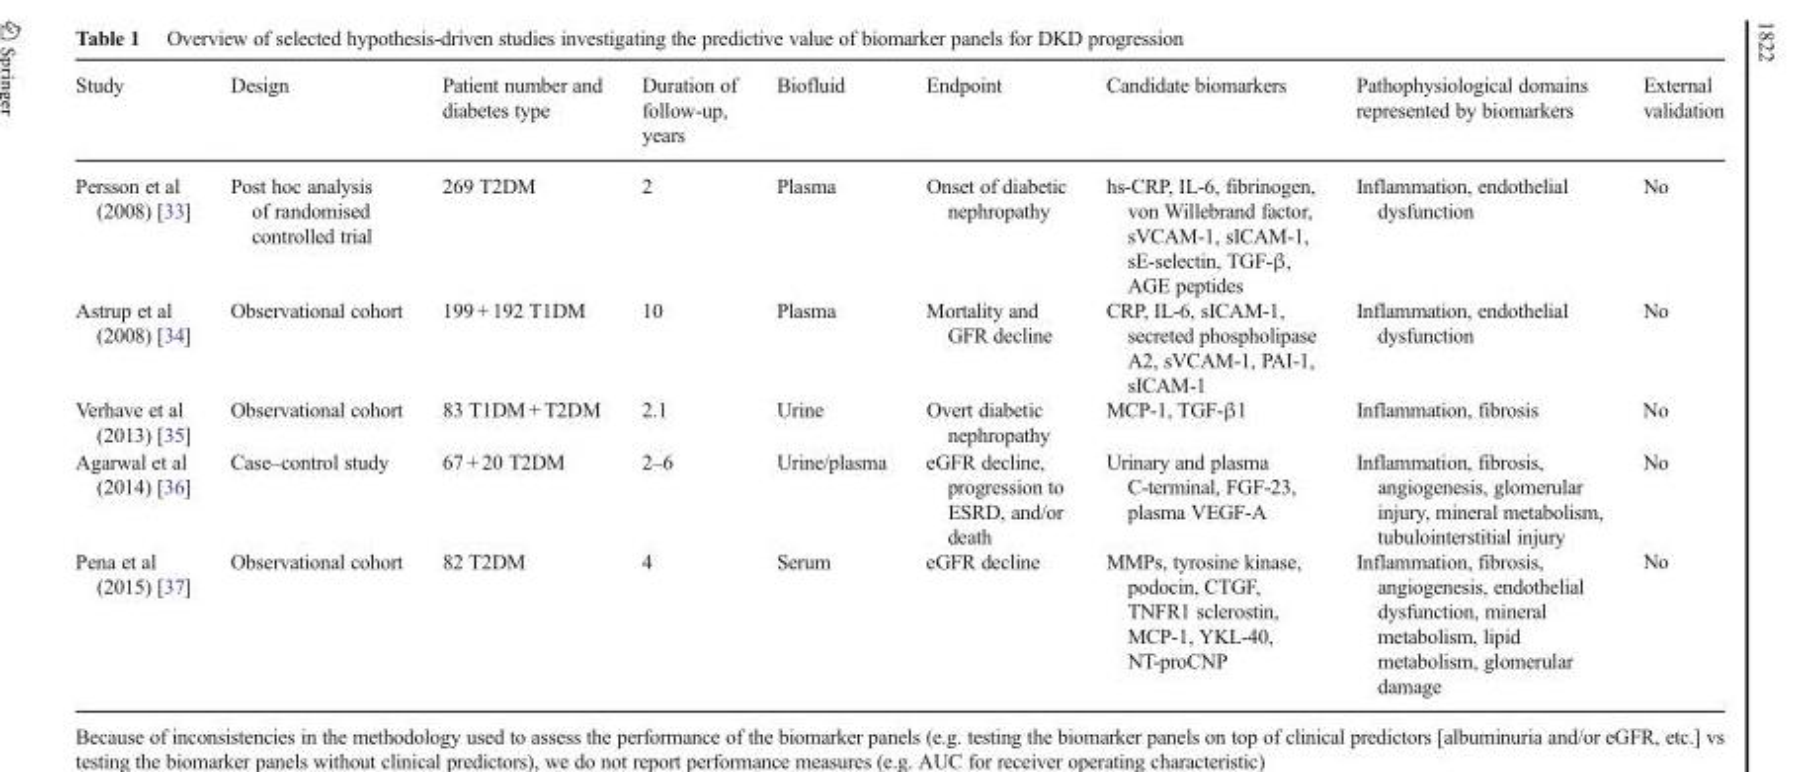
<table><thead><tr><td>Study</td><td>Design</td><td>Patient number and diabetes type</td><td>Duration of follow-up, years</td><td>Biofluid</td><td>Endpoint</td><td>Candidate biomarkers</td><td>Pathophysiological domains represented by biomarkers</td><td>External validation</td></tr></thead><tbody><tr><td>Persson et al (2008) [33]</td><td>Post hoc analysis of randomised controlled trial</td><td>269 T2DM</td><td>2</td><td>Plasma</td><td>Onset of diabetic nephropathy</td><td>hs-CRP, IL-6, fibrinogen, von Willebrand factor, sVCAM-1, sICAM-1, sE-selectin, TGF-β, AGE peptides</td><td>Inflammation, endothelial dysfunction</td><td>No</td></tr><tr><td>Astrup et al (2008) [34]</td><td>Observational cohort</td><td>199 + 192 T1DM</td><td>10</td><td>Plasma</td><td>Mortality and GFR decline</td><td>CRP, IL-6, sICAM-1, secreted phospholipase A2, sVCAM-1, PAI-1, sICAM-1</td><td>Inflammation, endothelial dysfunction</td><td>No</td></tr><tr><td>Verhave et al (2013) [35]</td><td>Observational cohort</td><td>83 T1DM + T2DM</td><td>2.1</td><td>Urine</td><td>Overt diabetic nephropathy</td><td>MCP-1, TGF-β1</td><td>Inflammation, fibrosis</td><td>No</td></tr><tr><td>Agarwal et al (2014) [36]</td><td>Case–control study</td><td>67 + 20 T2DM</td><td>2–6</td><td>Urine/plasma</td><td>eGFR decline, progression to ESRD, and/or death</td><td>Urinary and plasma C-terminal, FGF-23, plasma VEGF-A</td><td>Inflammation, fibrosis, angiogenesis, glomerular injury, mineral metabolism, tubulointerstitial injury</td><td>No</td></tr><tr><td>Pena et al (2015) [37]</td><td>Observational cohort</td><td>82 T2DM</td><td>4</td><td>Serum</td><td>eGFR decline</td><td>MMPs, tyrosine kinase, podocin, CTGF, TNFR1 sclerostin, MCP-1, YKL-40, NT-proCNP</td><td>Inflammation, fibrosis, angiogenesis, endothelial dysfunction, mineral metabolism, lipid metabolism, glomerular damage</td><td>No</td></tr></tbody></table>